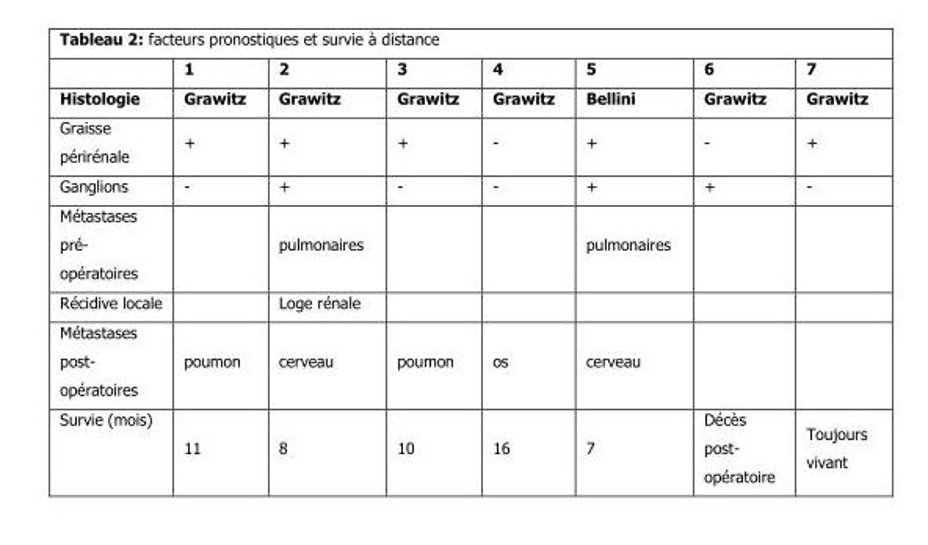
<table><thead><tr><td rowspan="2">Histologie</td><td rowspan="2">1 Grawitz</td><td rowspan="2">2 Grawitz</td><td rowspan="2">3 Grawitz</td><td rowspan="2">4 Grawitz</td><td rowspan="2">5 Bellini</td><td rowspan="2">6 Grawitz</td><td rowspan="2">7 Grawitz</td></tr><tr></tr></thead><tbody><tr><td>Graisse périrénale</td><td>+</td><td>+</td><td>+</td><td>-</td><td>+</td><td>-</td><td>+</td></tr><tr><td>Ganglions</td><td>-</td><td>+</td><td>-</td><td>-</td><td>+</td><td>+</td><td>-</td></tr><tr><td>Métastases pré- opératoires</td><td></td><td>pulmonaires</td><td></td><td></td><td>pulmonaires</td><td></td><td></td></tr><tr><td>Récidive locale</td><td></td><td>Loge rénale</td><td></td><td></td><td></td><td></td><td></td></tr><tr><td>Métastases post- opératoires</td><td>poumon</td><td>cerveau</td><td>poumon</td><td>os</td><td>cerveau</td><td></td><td></td></tr><tr><td>Survie (mois)</td><td>11</td><td>8</td><td>10</td><td>16</td><td>7</td><td>Décès post- opératoire</td><td>Toujours vivant</td></tr></tbody></table>